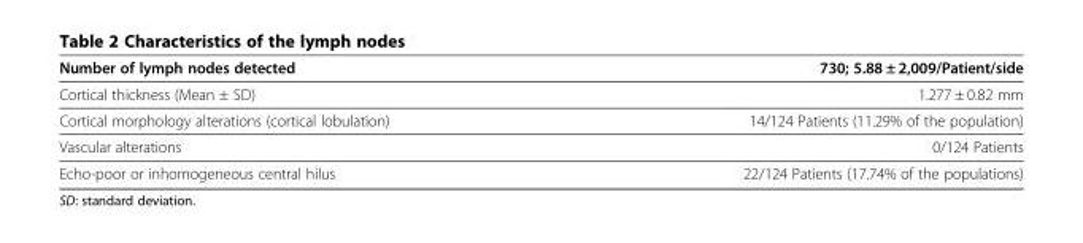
<table><thead><tr><td>Number of lymph nodes detected</td><td>730; 5.88 ± 2,009/Patient/side</td></tr></thead><tbody><tr><td>Cortical thickness (Mean ± SD)</td><td>1.277 ± 0.82 mm</td></tr><tr><td>Cortical morphology alterations (cortical lobulation)</td><td>14/124 Patients (11.29% of the population)</td></tr><tr><td>Vascular alterations</td><td>0/124 Patients</td></tr><tr><td>Echo-poor or inhomogeneous central hilus</td><td>22/124 Patients (17.74% of the populations)</td></tr></tbody></table>